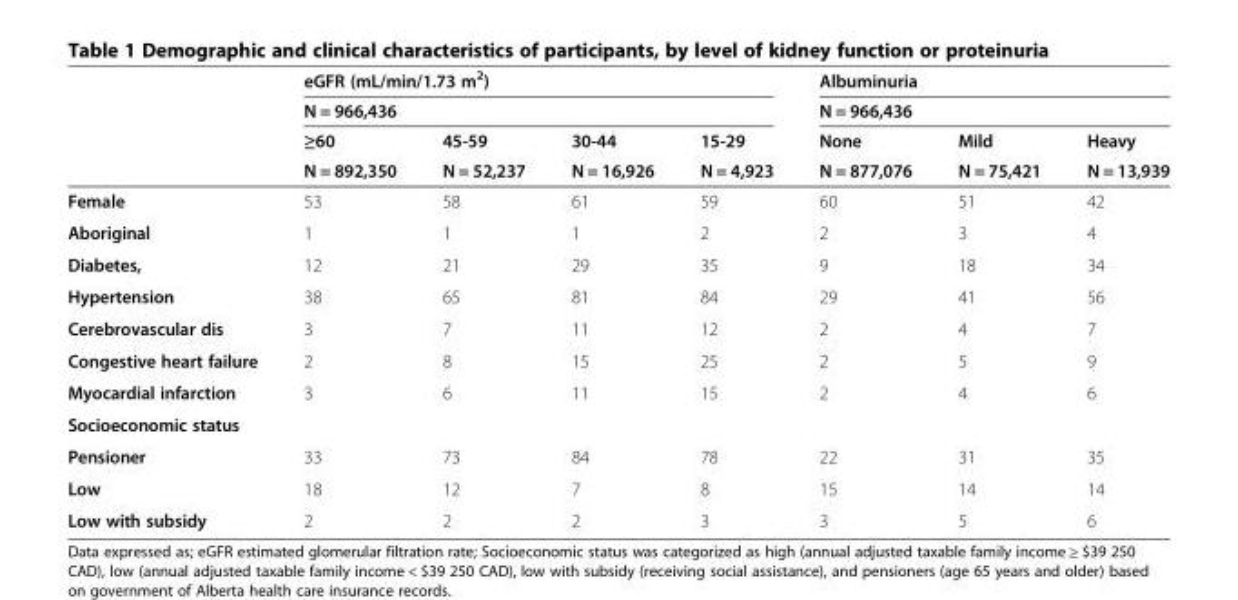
<table><thead><tr><td rowspan="4"></td><td rowspan="2" colspan="4">eGFR (mL/min/1.73 m<sup>2</sup>) N = 966,436</td><td rowspan="2" colspan="3">Albuminuria N = 966,436</td></tr><tr></tr><tr><td rowspan="2">≥60 N = 892,350</td><td rowspan="2">45-59 N = 52,237</td><td rowspan="2">30-44 N = 16,926</td><td rowspan="2">15-29 N = 4,923</td><td rowspan="2">None N = 877,076</td><td rowspan="2">Mild N = 75,421</td><td rowspan="2">Heavy N = 13,939</td></tr><tr></tr></thead><tbody><tr><td>Female</td><td>53</td><td>58</td><td>61</td><td>59</td><td>60</td><td>51</td><td>42</td></tr><tr><td>Aboriginal</td><td>1</td><td>1</td><td>1</td><td>2</td><td>2</td><td>3</td><td>4</td></tr><tr><td>Diabetes,</td><td>12</td><td>21</td><td>29</td><td>35</td><td>9</td><td>18</td><td>34</td></tr><tr><td>Hypertension</td><td>38</td><td>65</td><td>81</td><td>84</td><td>29</td><td>41</td><td>56</td></tr><tr><td>Cerebrovascular dis</td><td>3</td><td>7</td><td>11</td><td>12</td><td>2</td><td>4</td><td>7</td></tr><tr><td>Congestive heart failure</td><td>2</td><td>8</td><td>15</td><td>25</td><td>2</td><td>5</td><td>9</td></tr><tr><td>Myocardial infarction</td><td>3</td><td>6</td><td>11</td><td>15</td><td>2</td><td>4</td><td>6</td></tr><tr><td colspan="8">Socioeconomic status</td></tr><tr><td>Pensioner</td><td>33</td><td>73</td><td>84</td><td>78</td><td>22</td><td>31</td><td>35</td></tr><tr><td>Low</td><td>18</td><td>12</td><td>7</td><td>8</td><td>15</td><td>14</td><td>14</td></tr><tr><td>Low with subsidy</td><td>2</td><td>2</td><td>2</td><td>3</td><td>3</td><td>5</td><td>6</td></tr></tbody></table>